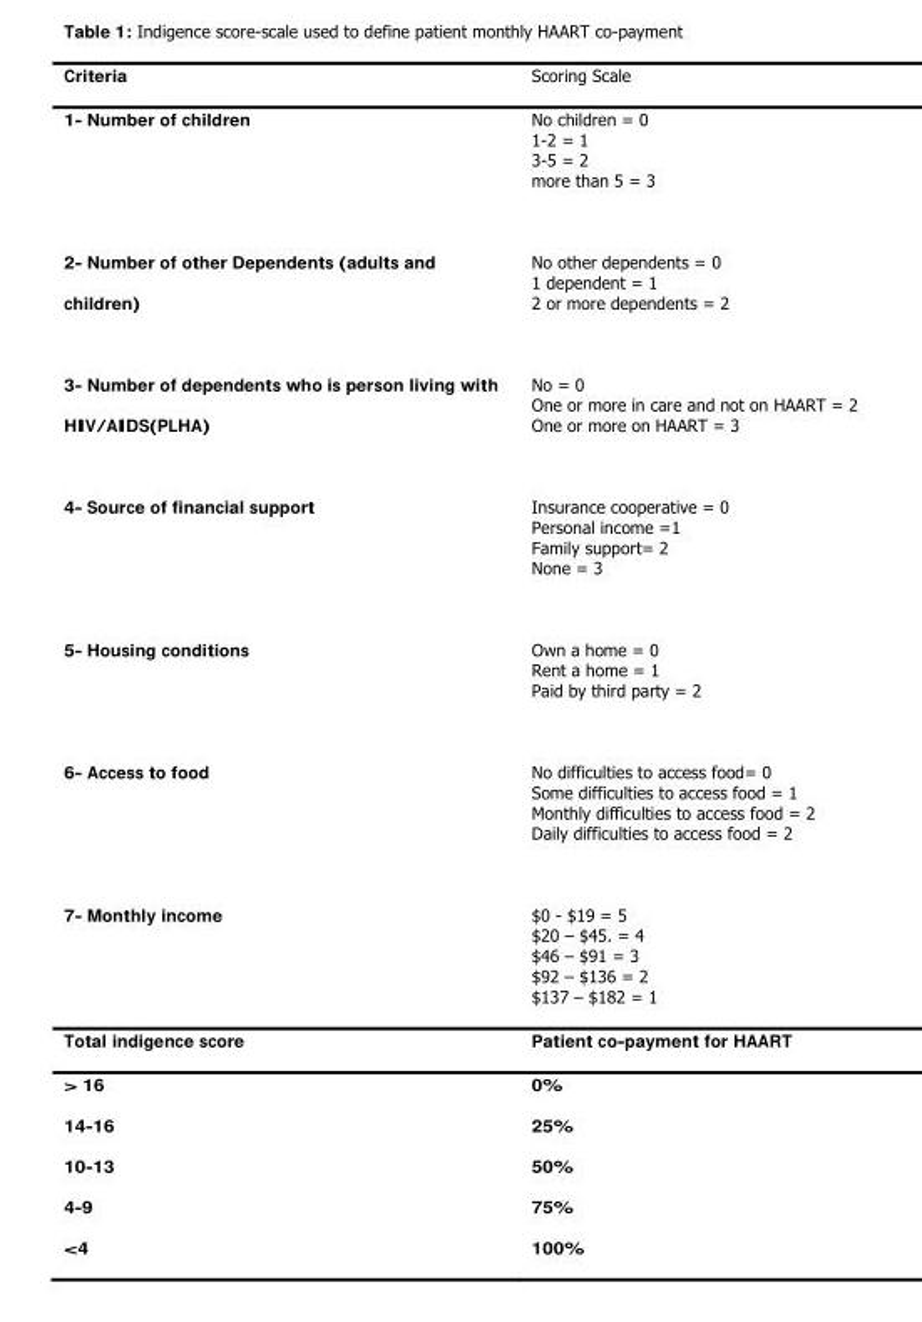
<table><thead><tr><td>Criteria</td><td>Scoring Scale</td></tr></thead><tbody><tr><td>1- Number of children</td><td>No children = 0 1-2 = 1 3-5 = 2 more than 5 = 3</td></tr><tr><td>2- Number of other Dependents (adults and children)</td><td>No other dependents = 0 1 dependent = 1 2 or more dependents = 2</td></tr><tr><td>3- Number of dependents who is person living with HIV/AIDS(PLHA)</td><td>No = 0 One or more in care and not on HAART = 2 One or more on HAART = 3</td></tr><tr><td>4- Source of financial support</td><td>Insurance cooperative = 0 Personal income =1 Family support= 2 None = 3</td></tr><tr><td>5- Housing conditions</td><td>Own a home = 0 Rent a home = 1 Paid by third party = 2</td></tr><tr><td>6- Access to food</td><td>No difficulties to access food= 0 Some difficulties to access food = 1 Monthly difficulties to access food = 2 Daily difficulties to access food = 2</td></tr><tr><td>7- Monthly income</td><td>$0 - $19 = 5 $20 – $45. = 4 $46 – $91 = 3 $92 – $136 = 2 $137 – $182 = 1</td></tr><tr><td>Total indigence score</td><td>Patient co-payment for HAART</td></tr><tr><td>&gt; 16</td><td>0%</td></tr><tr><td>14-16</td><td>25%</td></tr><tr><td>10-13</td><td>50%</td></tr><tr><td>4-9</td><td>75%</td></tr><tr><td>&lt;4</td><td>100%</td></tr></tbody></table>